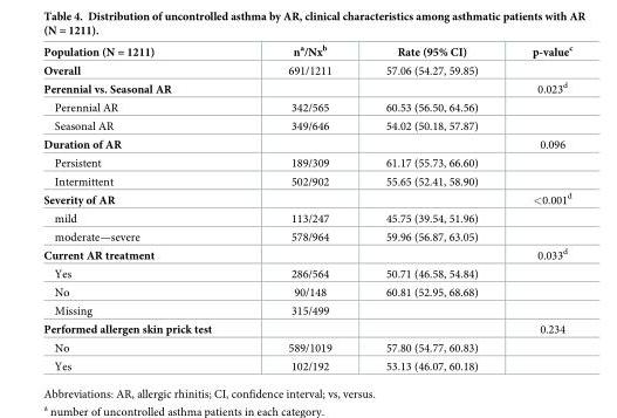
<table><thead><tr><td>Population (N = 1211)</td><td>n<sup>a</sup>/Nx<sup>b</sup></td><td>Rate (95% CI)</td><td>p-value<sup>c</sup></td></tr></thead><tbody><tr><td>Overall</td><td>691/1211</td><td>57.06 (54.27, 59.85)</td><td></td></tr><tr><td>Perennial vs. Seasonal AR</td><td></td><td></td><td>0.023<sup>d</sup></td></tr><tr><td>Perennial AR</td><td>342/565</td><td>60.53 (56.50, 64.56)</td><td></td></tr><tr><td>Seasonal AR</td><td>349/646</td><td>54.02 (50.18, 57.87)</td><td></td></tr><tr><td>Duration of AR</td><td></td><td></td><td>0.096</td></tr><tr><td>Persistent</td><td>189/309</td><td>61.17 (55.73, 66.60)</td><td></td></tr><tr><td>Intermittent</td><td>502/902</td><td>55.65 (52.41, 58.90)</td><td></td></tr><tr><td>Severity of AR</td><td></td><td></td><td>&lt;0.001<sup>d</sup></td></tr><tr><td>mild</td><td>113/247</td><td>45.75 (39.54, 51.96)</td><td></td></tr><tr><td>moderate—severe</td><td>578/964</td><td>59.96 (56.87, 63.05)</td><td></td></tr><tr><td>Current AR treatment</td><td></td><td></td><td>0.033<sup>d</sup></td></tr><tr><td>Yes</td><td>286/564</td><td>50.71 (46.58, 54.84)</td><td></td></tr><tr><td>No</td><td>90/148</td><td>60.81 (52.95, 68.68)</td><td></td></tr><tr><td>Missing</td><td>315/499</td><td></td><td></td></tr><tr><td>Performed allergen skin prick test</td><td></td><td></td><td>0.234</td></tr><tr><td>No</td><td>589/1019</td><td>57.80 (54.77, 60.83)</td><td></td></tr><tr><td>Yes</td><td>102/192</td><td>53.13 (46.07, 60.18)</td><td></td></tr></tbody></table>